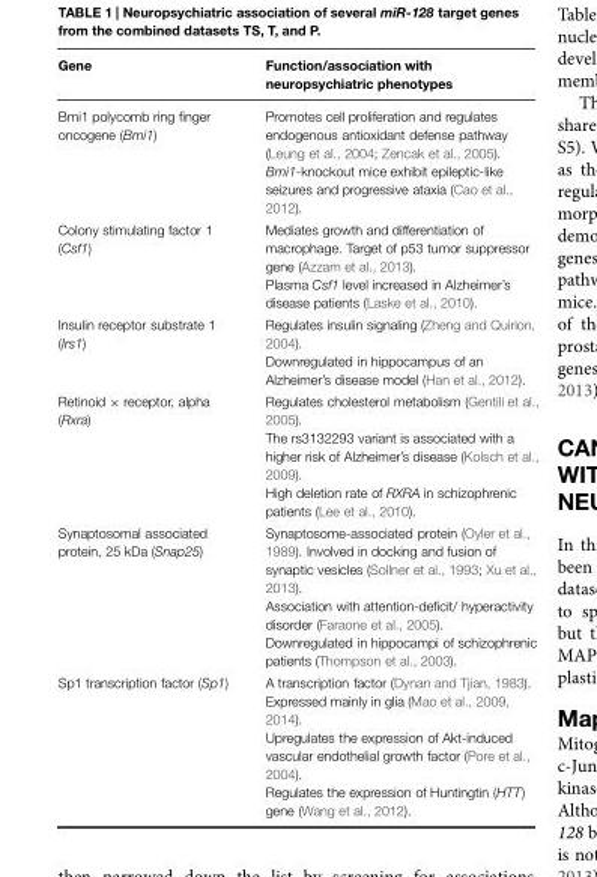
<table><thead><tr><td>Gene</td><td>Function/association with neuropsychiatric phenotypes</td></tr></thead><tbody><tr><td rowspan="2">Bmi1 polycomb ring finger oncogene (Bmi1)</td><td>Promotes cell proliferation and regulates endogenous antioxidant defense pathway (Leung et al., 2004; Zencak et al., 2005).</td></tr><tr><td>Bmi1-knockout mice exhibit epileptic-like seizures and progressive ataxia (Cao et al., 2012).</td></tr><tr><td rowspan="2">Colony stimulating factor 1 (Csf1)</td><td>Mediates growth and differentiation of macrophage. Target of p53 tumor suppressor gene (Azzam et al., 2013).</td></tr><tr><td>Plasma Csf1 level increased in Alzheimer’s disease patients (Laske et al., 2010).</td></tr><tr><td rowspan="2">Insulin receptor substrate 1 (Irs1)</td><td>Regulates insulin signaling (Zheng and Quirion, 2004).</td></tr><tr><td>Downregulated in hippocampus of an Alzheimer’s disease model (Han et al., 2012).</td></tr><tr><td rowspan="3">Retinoid × receptor, alpha (Rxra)</td><td>Regulates cholesterol metabolism (Gentili et al., 2005).</td></tr><tr><td>The rs3132293 variant is associated with a higher risk of Alzheimer’s disease (Kolsch et al., 2009).</td></tr><tr><td>High deletion rate of RXRA in schizophrenic patients (Lee et al., 2010).</td></tr><tr><td rowspan="3">Synaptosomal associated protein, 25 kDa (Snap25)</td><td>Synaptosome-associated protein (Oyler et al., 1989). Involved in docking and fusion of synaptic vesicles (Sollner et al., 1993; Xu et al., 2013).</td></tr><tr><td>Association with attention-deficit/ hyperactivity disorder (Faraone et al., 2005).</td></tr><tr><td>Downregulated in hippocampi of schizophrenic patients (Thompson et al., 2003).</td></tr><tr><td rowspan="3">Sp1 transcription factor (Sp1)</td><td>A transcription factor (Dynan and Tjian, 1983). Expressed mainly in glia (Mao et al., 2009, 2014).</td></tr><tr><td>Upregulates the expression of Akt-induced vascular endothelial growth factor (Pore et al., 2004).</td></tr><tr><td>Regulates the expression of Huntingtin (HTT) gene (Wang et al., 2012).</td></tr></tbody></table>